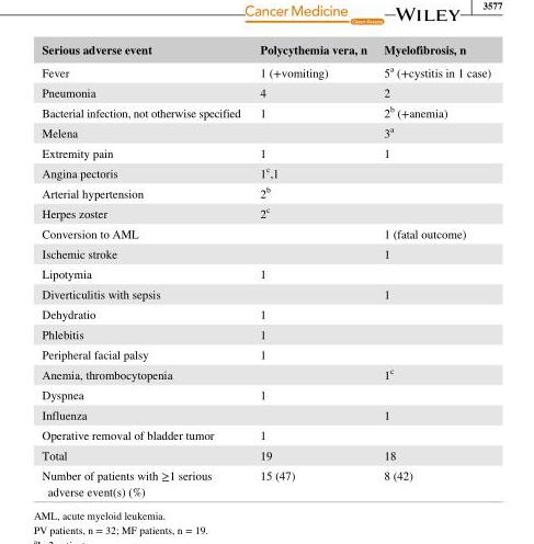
<table><thead><tr><td>Serious adverse event</td><td>Polycythemia vera, n</td><td>Myelofibrosis, n</td></tr></thead><tbody><tr><td>Fever</td><td>1 (+vomiting)</td><td>5a (+cystitis in 1 case)</td></tr><tr><td>Pneumonia</td><td>4</td><td>2</td></tr><tr><td>Bacterial infection, not otherwise specified</td><td>1</td><td>2b (+anemia)</td></tr><tr><td>Melena</td><td></td><td>3a</td></tr><tr><td>Extremity pain</td><td>1</td><td>1</td></tr><tr><td>Angina pectoris</td><td>1c,1</td><td></td></tr><tr><td>Arterial hypertension</td><td>2<sup>b</sup></td><td></td></tr><tr><td>Herpes zoster</td><td>2c</td><td></td></tr><tr><td>Conversion to AML</td><td></td><td>1 (fatal outcome)</td></tr><tr><td>Ischemic stroke</td><td></td><td>1</td></tr><tr><td>Lipotymia</td><td>1</td><td></td></tr><tr><td>Diverticulitis with sepsis</td><td></td><td>1</td></tr><tr><td>Dehydratio</td><td>1</td><td></td></tr><tr><td>Phlebitis</td><td>1</td><td></td></tr><tr><td>Peripheral facial palsy</td><td>1</td><td></td></tr><tr><td>Anemia, thrombocytopenia</td><td></td><td>1c</td></tr><tr><td>Dyspnea</td><td>1</td><td></td></tr><tr><td>Influenza</td><td></td><td>1</td></tr><tr><td>Operative removal of bladder tumor</td><td>1</td><td></td></tr><tr><td>Total</td><td>19</td><td>18</td></tr><tr><td>Number of patients with ≥1 serious adverse event(s) (%)</td><td>15 (47)</td><td>8 (42)</td></tr></tbody></table>